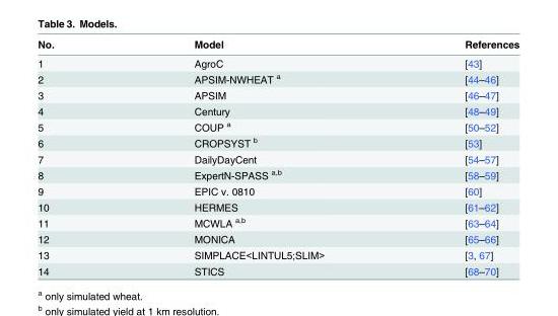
<table><thead><tr><td>No.</td><td>Model</td><td>References</td></tr></thead><tbody><tr><td>1</td><td>AgroC</td><td>[43]</td></tr><tr><td>2</td><td>APSIM-NWHEAT <sup>a</sup></td><td>[44–46]</td></tr><tr><td>3</td><td>APSIM</td><td>[46–47]</td></tr><tr><td>4</td><td>Century</td><td>[48–49]</td></tr><tr><td>5</td><td>COUP <sup>a</sup></td><td>[50–52]</td></tr><tr><td>6</td><td>CROPSYST <sup>b</sup></td><td>[53]</td></tr><tr><td>7</td><td>DailyDayCent</td><td>[54–57]</td></tr><tr><td>8</td><td>ExpertN-SPASS <sup>a,b</sup></td><td>[58–59]</td></tr><tr><td>9</td><td>EPIC v. 0810</td><td>[60]</td></tr><tr><td>10</td><td>HERMES</td><td>[61–62]</td></tr><tr><td>11</td><td>MCWLA <sup>a,b</sup></td><td>[63–64]</td></tr><tr><td>12</td><td>MONICA</td><td>[65–66]</td></tr><tr><td>13</td><td>SIMPLACE&lt;LINTUL5;SLIM&gt;</td><td>[3, 67]</td></tr><tr><td>14</td><td>STICS</td><td>[68–70]</td></tr></tbody></table>